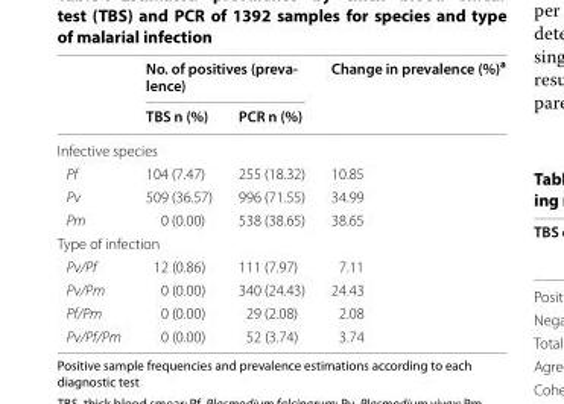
<table><thead><tr><td rowspan="2"></td><td colspan="2">No. of positives (preva- lence)</td><td rowspan="2">Change in prevalence (%)<sup>a</sup></td></tr><tr><td>TBS n (%)</td><td>PCR n (%)</td></tr></thead><tbody><tr><td colspan="4">Infective species</td></tr><tr><td>Pf</td><td>104 (7.47)</td><td>255 (18.32)</td><td>10.85</td></tr><tr><td>Pv</td><td>509 (36.57)</td><td>996 (71.55)</td><td>34.99</td></tr><tr><td>Pm</td><td>0 (0.00)</td><td>538 (38.65)</td><td>38.65</td></tr><tr><td colspan="4">Type of infection</td></tr><tr><td>Pv/Pf</td><td>12 (0.86)</td><td>111 (7.97)</td><td>7.11</td></tr><tr><td>Pv/Pm</td><td>0 (0.00)</td><td>340 (24.43)</td><td>24.43</td></tr><tr><td>Pf/Pm</td><td>0 (0.00)</td><td>29 (2.08)</td><td>2.08</td></tr><tr><td>Pv/Pf/Pm</td><td>0 (0.00)</td><td>52 (3.74)</td><td>3.74</td></tr></tbody></table>